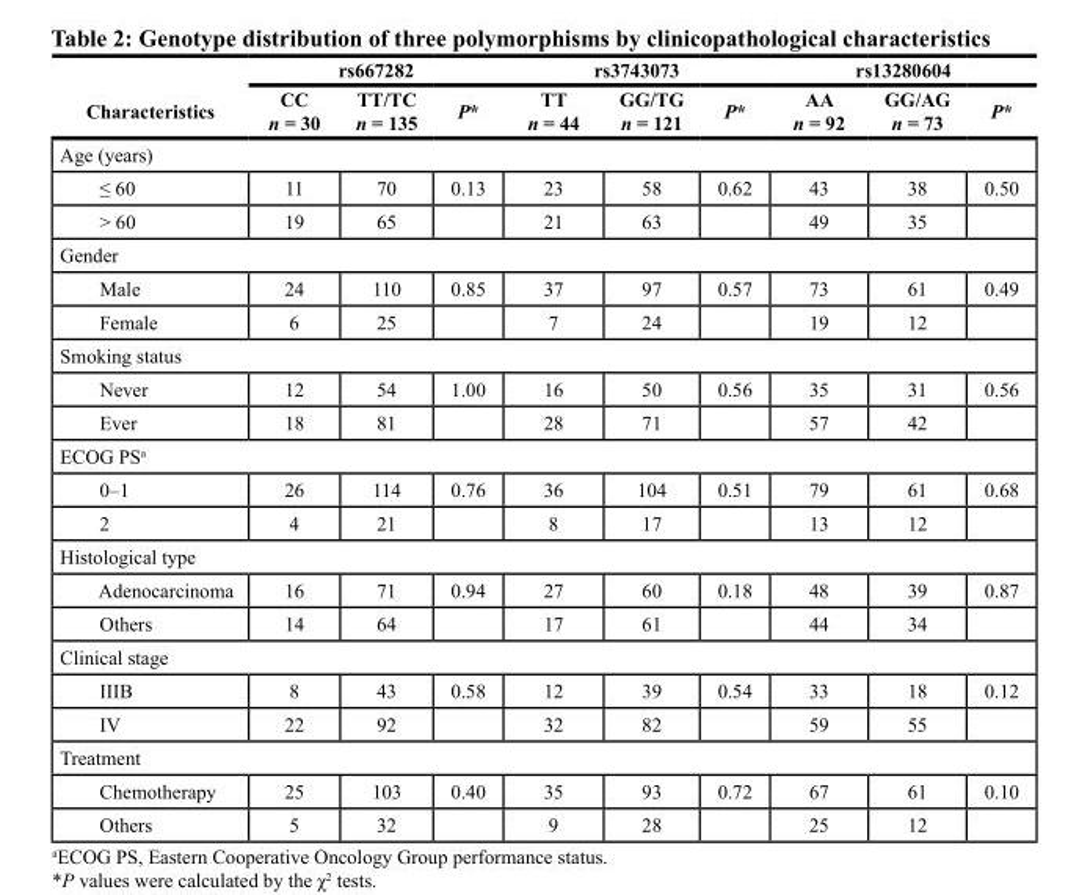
<table><thead><tr><td rowspan="2">Characteristics</td><td colspan="3">rs667282</td><td colspan="3">rs3743073</td><td colspan="3">rs13280604</td></tr><tr><td>CC n = 30</td><td>TT/TC n = 135</td><td>P*</td><td>TT n = 44</td><td>GG/TG n = 121</td><td>P*</td><td>AA n = 92</td><td>GG/AG n = 73</td><td>P*</td></tr></thead><tbody><tr><td colspan="10">Age (years)</td></tr><tr><td>≤ 60</td><td>11</td><td>70</td><td>0.13</td><td>23</td><td>58</td><td>0.62</td><td>43</td><td>38</td><td>0.50</td></tr><tr><td>˃ 60</td><td>19</td><td>65</td><td></td><td>21</td><td>63</td><td></td><td>49</td><td>35</td><td></td></tr><tr><td colspan="10">Gender</td></tr><tr><td>Male</td><td>24</td><td>110</td><td>0.85</td><td>37</td><td>97</td><td>0.57</td><td>73</td><td>61</td><td>0.49</td></tr><tr><td>Female</td><td>6</td><td>25</td><td></td><td>7</td><td>24</td><td></td><td>19</td><td>12</td><td></td></tr><tr><td colspan="10">Smoking status</td></tr><tr><td>Never</td><td>12</td><td>54</td><td>1.00</td><td>16</td><td>50</td><td>0.56</td><td>35</td><td>31</td><td>0.56</td></tr><tr><td>Ever</td><td>18</td><td>81</td><td></td><td>28</td><td>71</td><td></td><td>57</td><td>42</td><td></td></tr><tr><td colspan="10">ECOG PS<sup>a</sup></td></tr><tr><td>0–1</td><td>26</td><td>114</td><td>0.76</td><td>36</td><td>104</td><td>0.51</td><td>79</td><td>61</td><td>0.68</td></tr><tr><td>2</td><td>4</td><td>21</td><td></td><td>8</td><td>17</td><td></td><td>13</td><td>12</td><td></td></tr><tr><td colspan="10">Histological type</td></tr><tr><td>Adenocarcinoma</td><td>16</td><td>71</td><td>0.94</td><td>27</td><td>60</td><td>0.18</td><td>48</td><td>39</td><td>0.87</td></tr><tr><td>Others</td><td>14</td><td>64</td><td></td><td>17</td><td>61</td><td></td><td>44</td><td>34</td><td></td></tr><tr><td colspan="10">Clinical stage</td></tr><tr><td>IIIB</td><td>8</td><td>43</td><td>0.58</td><td>12</td><td>39</td><td>0.54</td><td>33</td><td>18</td><td>0.12</td></tr><tr><td>IV</td><td>22</td><td>92</td><td></td><td>32</td><td>82</td><td></td><td>59</td><td>55</td><td></td></tr><tr><td colspan="10">Treatment</td></tr><tr><td>Chemotherapy</td><td>25</td><td>103</td><td>0.40</td><td>35</td><td>93</td><td>0.72</td><td>67</td><td>61</td><td>0.10</td></tr><tr><td>Others</td><td>5</td><td>32</td><td></td><td>9</td><td>28</td><td></td><td>25</td><td>12</td><td></td></tr></tbody></table>